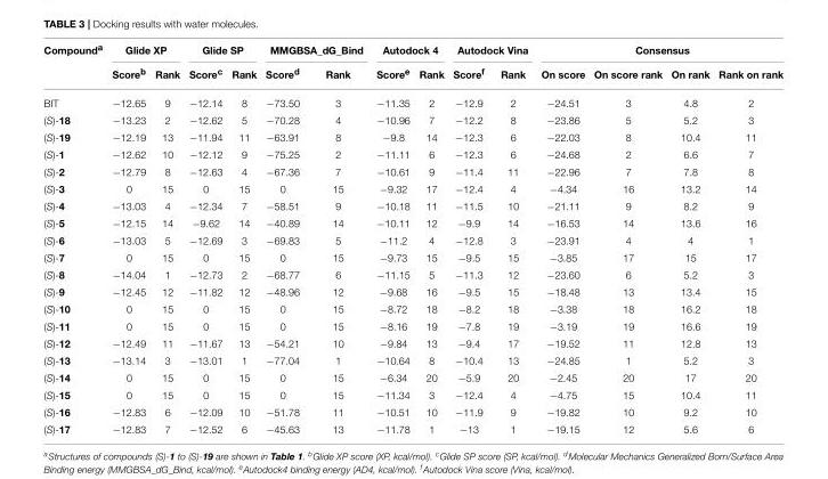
<table><thead><tr><td rowspan="2">Compound<sup>a</sup></td><td colspan="2">Glide XP</td><td colspan="2">Glide SP</td><td colspan="2">MMGBSA_dG_Bind</td><td colspan="2">Autodock 4</td><td colspan="2">Autodock Vina</td><td colspan="4">Consensus</td></tr><tr><td>Score<sup>b</sup></td><td>Rank</td><td>Score<sup>c</sup></td><td>Rank</td><td>Score<sup>d</sup></td><td>Rank</td><td>Score<sup>e</sup></td><td>Rank</td><td>Score<sup>f</sup></td><td>Rank</td><td>On score</td><td>On score rank</td><td>On rank</td><td>Rank on rank</td></tr></thead><tbody><tr><td>BIT</td><td>−12.65</td><td>9</td><td>−12.14</td><td>8</td><td>−73.50</td><td>3</td><td>−11.35</td><td>2</td><td>−12.9</td><td>2</td><td>−24.51</td><td>3</td><td>4.8</td><td>2</td></tr><tr><td>(S)-18</td><td>−13.23</td><td>2</td><td>−12.62</td><td>5</td><td>−70.28</td><td>4</td><td>−10.96</td><td>7</td><td>−12.2</td><td>8</td><td>−23.86</td><td>5</td><td>5.2</td><td>3</td></tr><tr><td>(S)-19</td><td>−12.19</td><td>13</td><td>−11.94</td><td>11</td><td>−63.91</td><td>8</td><td>−9.8</td><td>14</td><td>−12.3</td><td>6</td><td>−22.03</td><td>8</td><td>10.4</td><td>11</td></tr><tr><td>(S)-1</td><td>−12.62</td><td>10</td><td>−12.12</td><td>9</td><td>−75.25</td><td>2</td><td>−11.11</td><td>6</td><td>−12.3</td><td>6</td><td>−24.68</td><td>2</td><td>6.6</td><td>7</td></tr><tr><td>(S)-2</td><td>−12.79</td><td>8</td><td>−12.63</td><td>4</td><td>−67.36</td><td>7</td><td>−10.61</td><td>9</td><td>−11.4</td><td>11</td><td>−22.96</td><td>7</td><td>7.8</td><td>8</td></tr><tr><td>(S)-3</td><td>0</td><td>15</td><td>0</td><td>15</td><td>0</td><td>15</td><td>−9.32</td><td>17</td><td>−12.4</td><td>4</td><td>−4.34</td><td>16</td><td>13.2</td><td>14</td></tr><tr><td>(S)-4</td><td>−13.03</td><td>4</td><td>−12.34</td><td>7</td><td>−58.51</td><td>9</td><td>−10.18</td><td>11</td><td>−11.5</td><td>10</td><td>−21.11</td><td>9</td><td>8.2</td><td>9</td></tr><tr><td>(S)-5</td><td>−12.15</td><td>14</td><td>−9.62</td><td>14</td><td>−40.89</td><td>14</td><td>−10.11</td><td>12</td><td>−9.9</td><td>14</td><td>−16.53</td><td>14</td><td>13.6</td><td>16</td></tr><tr><td>(S)-6</td><td>−13.03</td><td>5</td><td>−12.69</td><td>3</td><td>−69.83</td><td>5</td><td>−11.2</td><td>4</td><td>−12.8</td><td>3</td><td>−23.91</td><td>4</td><td>4</td><td>1</td></tr><tr><td>(S)-7</td><td>0</td><td>15</td><td>0</td><td>15</td><td>0</td><td>15</td><td>−9.73</td><td>15</td><td>−9.5</td><td>15</td><td>−3.85</td><td>17</td><td>15</td><td>17</td></tr><tr><td>(S)-8</td><td>−14.04</td><td>1</td><td>−12.73</td><td>2</td><td>−68.77</td><td>6</td><td>−11.15</td><td>5</td><td>−11.3</td><td>12</td><td>−23.60</td><td>6</td><td>5.2</td><td>3</td></tr><tr><td>(S)-9</td><td>−12.45</td><td>12</td><td>−11.82</td><td>12</td><td>−48.96</td><td>12</td><td>−9.68</td><td>16</td><td>−9.5</td><td>15</td><td>−18.48</td><td>13</td><td>13.4</td><td>15</td></tr><tr><td>(S)-10</td><td>0</td><td>15</td><td>0</td><td>15</td><td>0</td><td>15</td><td>−8.72</td><td>18</td><td>−8.2</td><td>18</td><td>−3.38</td><td>18</td><td>16.2</td><td>18</td></tr><tr><td>(S)-11</td><td>0</td><td>15</td><td>0</td><td>15</td><td>0</td><td>15</td><td>−8.16</td><td>19</td><td>−7.8</td><td>19</td><td>−3.19</td><td>19</td><td>16.6</td><td>19</td></tr><tr><td>(S)-12</td><td>−12.49</td><td>11</td><td>−11.67</td><td>13</td><td>−54.21</td><td>10</td><td>−9.84</td><td>13</td><td>−9.4</td><td>17</td><td>−19.52</td><td>11</td><td>12.8</td><td>13</td></tr><tr><td>(S)-13</td><td>−13.14</td><td>3</td><td>−13.01</td><td>1</td><td>−77.04</td><td>1</td><td>−10.64</td><td>8</td><td>−10.4</td><td>13</td><td>−24.85</td><td>1</td><td>5.2</td><td>3</td></tr><tr><td>(S)-14</td><td>0</td><td>15</td><td>0</td><td>15</td><td>0</td><td>15</td><td>−6.34</td><td>20</td><td>−5.9</td><td>20</td><td>−2.45</td><td>20</td><td>17</td><td>20</td></tr><tr><td>(S)-15</td><td>0</td><td>15</td><td>0</td><td>15</td><td>0</td><td>15</td><td>−11.34</td><td>3</td><td>−12.4</td><td>4</td><td>−4.75</td><td>15</td><td>10.4</td><td>11</td></tr><tr><td>(S)-16</td><td>−12.83</td><td>6</td><td>−12.09</td><td>10</td><td>−51.78</td><td>11</td><td>−10.51</td><td>10</td><td>−11.9</td><td>9</td><td>−19.82</td><td>10</td><td>9.2</td><td>10</td></tr><tr><td>(S)-17</td><td>−12.83</td><td>7</td><td>−12.52</td><td>6</td><td>−45.63</td><td>13</td><td>−11.78</td><td>1</td><td>−13</td><td>1</td><td>−19.15</td><td>12</td><td>5.6</td><td>6</td></tr></tbody></table>